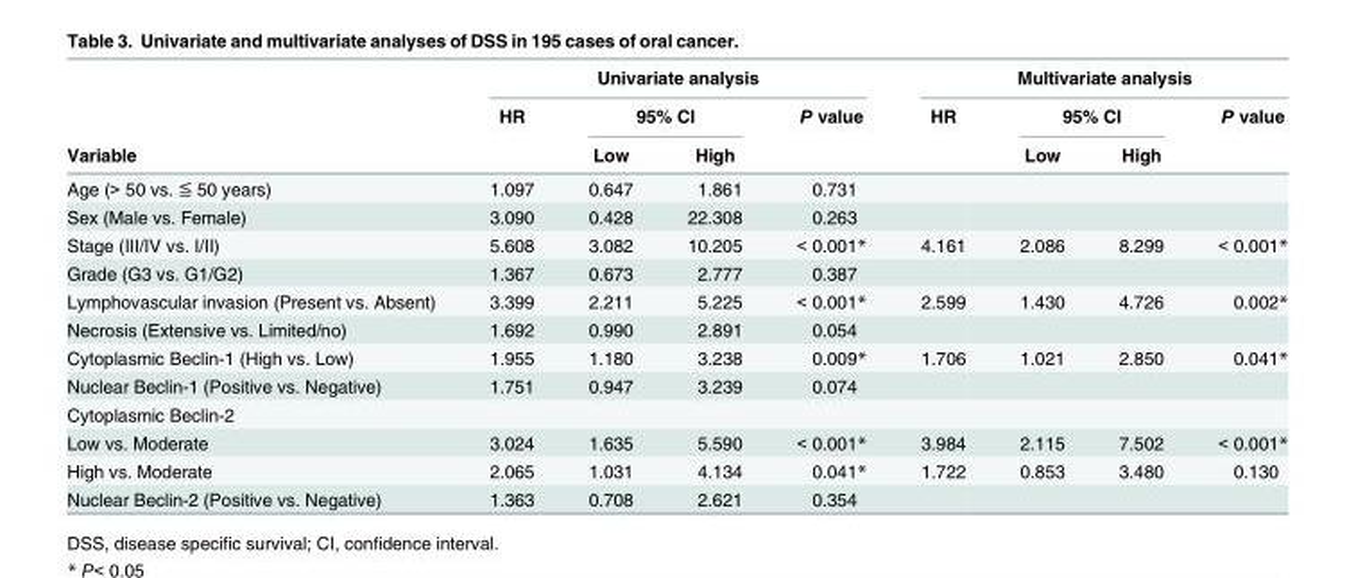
<table><thead><tr><td rowspan="3">Variable</td><td colspan="4">Univariate analysis</td><td colspan="4">Multivariate analysis</td></tr><tr><td rowspan="2">HR</td><td colspan="2">95% CI</td><td rowspan="2">P value</td><td rowspan="2">HR</td><td colspan="2">95% CI</td><td rowspan="2">P value</td></tr><tr><td>Low</td><td>High</td><td>Low</td><td>High</td></tr></thead><tbody><tr><td>Age (&gt; 50 vs. ≦ 50 years)</td><td>1.097</td><td>0.647</td><td>1.861</td><td>0.731</td><td></td><td></td><td></td><td></td></tr><tr><td>Sex (Male vs. Female)</td><td>3.090</td><td>0.428</td><td>22.308</td><td>0.263</td><td></td><td></td><td></td><td></td></tr><tr><td>Stage (III/IV vs. I/II)</td><td>5.608</td><td>3.082</td><td>10.205</td><td>&lt; 0.001*</td><td>4.161</td><td>2.086</td><td>8.299</td><td>&lt; 0.001*</td></tr><tr><td>Grade (G3 vs. G1/G2)</td><td>1.367</td><td>0.673</td><td>2.777</td><td>0.387</td><td></td><td></td><td></td><td></td></tr><tr><td>Lymphovascular invasion (Present vs. Absent)</td><td>3.399</td><td>2.211</td><td>5.225</td><td>&lt; 0.001*</td><td>2.599</td><td>1.430</td><td>4.726</td><td>0.002*</td></tr><tr><td>Necrosis (Extensive vs. Limited/no)</td><td>1.692</td><td>0.990</td><td>2.891</td><td>0.054</td><td></td><td></td><td></td><td></td></tr><tr><td>Cytoplasmic Beclin-1 (High vs. Low)</td><td>1.955</td><td>1.180</td><td>3.238</td><td>0.009*</td><td>1.706</td><td>1.021</td><td>2.850</td><td>0.041*</td></tr><tr><td>Nuclear Beclin-1 (Positive vs. Negative)</td><td>1.751</td><td>0.947</td><td>3.239</td><td>0.074</td><td></td><td></td><td></td><td></td></tr><tr><td colspan="9">Cytoplasmic Beclin-2</td></tr><tr><td>Low vs. Moderate</td><td>3.024</td><td>1.635</td><td>5.590</td><td>&lt; 0.001*</td><td>3.984</td><td>2.115</td><td>7.502</td><td>&lt; 0.001*</td></tr><tr><td>High vs. Moderate</td><td>2.065</td><td>1.031</td><td>4.134</td><td>0.041*</td><td>1.722</td><td>0.853</td><td>3.480</td><td>0.130</td></tr><tr><td>Nuclear Beclin-2 (Positive vs. Negative)</td><td>1.363</td><td>0.708</td><td>2.621</td><td>0.354</td><td></td><td></td><td></td><td></td></tr></tbody></table>